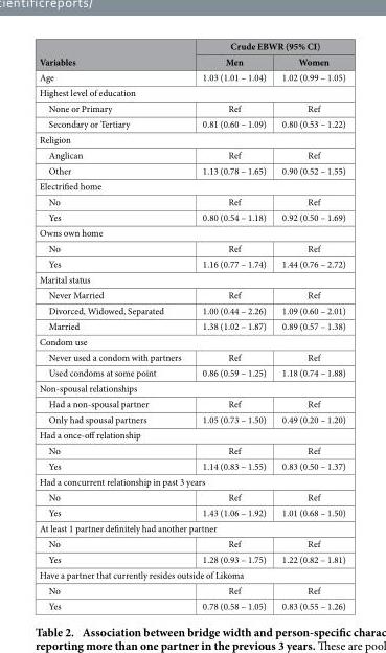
<table><thead><tr><td rowspan="2">Variables</td><td colspan="2">Crude EBWR (95% CI)</td></tr><tr><td>Men</td><td>Women</td></tr></thead><tbody><tr><td>Age</td><td>1.03 (1.01 – 1.04)</td><td>1.02 (0.99 – 1.05)</td></tr><tr><td colspan="3">Highest level of education</td></tr><tr><td>None or Primary</td><td>Ref</td><td>Ref</td></tr><tr><td>Secondary or Tertiary</td><td>0.81 (0.60 – 1.09)</td><td>0.80 (0.53 – 1.22)</td></tr><tr><td colspan="3">Religion</td></tr><tr><td>Anglican</td><td>Ref</td><td>Ref</td></tr><tr><td>Other</td><td>1.13 (0.78 – 1.65)</td><td>0.90 (0.52 – 1.55)</td></tr><tr><td colspan="3">Electrified home</td></tr><tr><td>No</td><td>Ref</td><td>Ref</td></tr><tr><td>Yes</td><td>0.80 (0.54 – 1.18)</td><td>0.92 (0.50 – 1.69)</td></tr><tr><td colspan="3">Owns own home</td></tr><tr><td>No</td><td>Ref</td><td>Ref</td></tr><tr><td>Yes</td><td>1.16 (0.77 – 1.74)</td><td>1.44 (0.76 – 2.72)</td></tr><tr><td colspan="3">Marital status</td></tr><tr><td>Never Married</td><td>Ref</td><td>Ref</td></tr><tr><td>Divorced, Widowed, Separated</td><td>1.00 (0.44 – 2.26)</td><td>1.09 (0.60 – 2.01)</td></tr><tr><td>Married</td><td>1.38 (1.02 – 1.87)</td><td>0.89 (0.57 – 1.38)</td></tr><tr><td colspan="3">Condom use</td></tr><tr><td>Never used a condom with partners</td><td>Ref</td><td>Ref</td></tr><tr><td>Used condoms at some point</td><td>0.86 (0.59 – 1.25)</td><td>1.18 (0.74 – 1.88)</td></tr><tr><td colspan="3">Non-spousal relationships</td></tr><tr><td>Had a non-spousal partner</td><td>Ref</td><td>Ref</td></tr><tr><td>Only had spousal partners</td><td>1.05 (0.73 – 1.50)</td><td>0.49 (0.20 – 1.20)</td></tr><tr><td colspan="3">Had a once-off relationship</td></tr><tr><td>No</td><td>Ref</td><td>Ref</td></tr><tr><td>Yes</td><td>1.14 (0.83 – 1.55)</td><td>0.83 (0.50 – 1.37)</td></tr><tr><td colspan="3">Had a concurrent relationship in past 3 years</td></tr><tr><td>No</td><td>Ref</td><td>Ref</td></tr><tr><td>Yes</td><td>1.43 (1.06 – 1.92)</td><td>1.01 (0.68 – 1.50)</td></tr><tr><td colspan="3">At least 1 partner definitely had another partner</td></tr><tr><td>No</td><td>Ref</td><td>Ref</td></tr><tr><td>Yes</td><td>1.28 (0.93 – 1.75)</td><td>1.22 (0.82 – 1.81)</td></tr><tr><td colspan="3">Have a partner that currently resides outside of Likoma</td></tr><tr><td>No</td><td>Ref</td><td>Ref</td></tr><tr><td>Yes</td><td>0.78 (0.58 – 1.05)</td><td>0.83 (0.55 – 1.26)</td></tr></tbody></table>